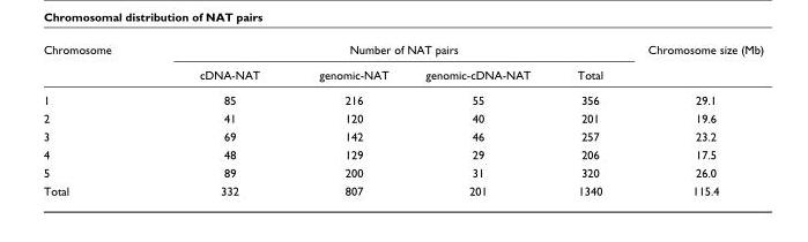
<table><thead><tr><td rowspan="2">Chromosome</td><td colspan="4">Number of NAT pairs</td><td rowspan="2">Chromosome size (Mb)</td></tr><tr><td>cDNA-NAT</td><td>genomic-NAT</td><td>genomic-cDNA-NAT</td><td>Total</td></tr></thead><tbody><tr><td>1</td><td>85</td><td>216</td><td>55</td><td>356</td><td>29.1</td></tr><tr><td>2</td><td>41</td><td>120</td><td>40</td><td>201</td><td>19.6</td></tr><tr><td>3</td><td>69</td><td>142</td><td>46</td><td>257</td><td>23.2</td></tr><tr><td>4</td><td>48</td><td>129</td><td>29</td><td>206</td><td>17.5</td></tr><tr><td>5</td><td>89</td><td>200</td><td>31</td><td>320</td><td>26.0</td></tr><tr><td>Total</td><td>332</td><td>807</td><td>201</td><td>1340</td><td>115.4</td></tr></tbody></table>